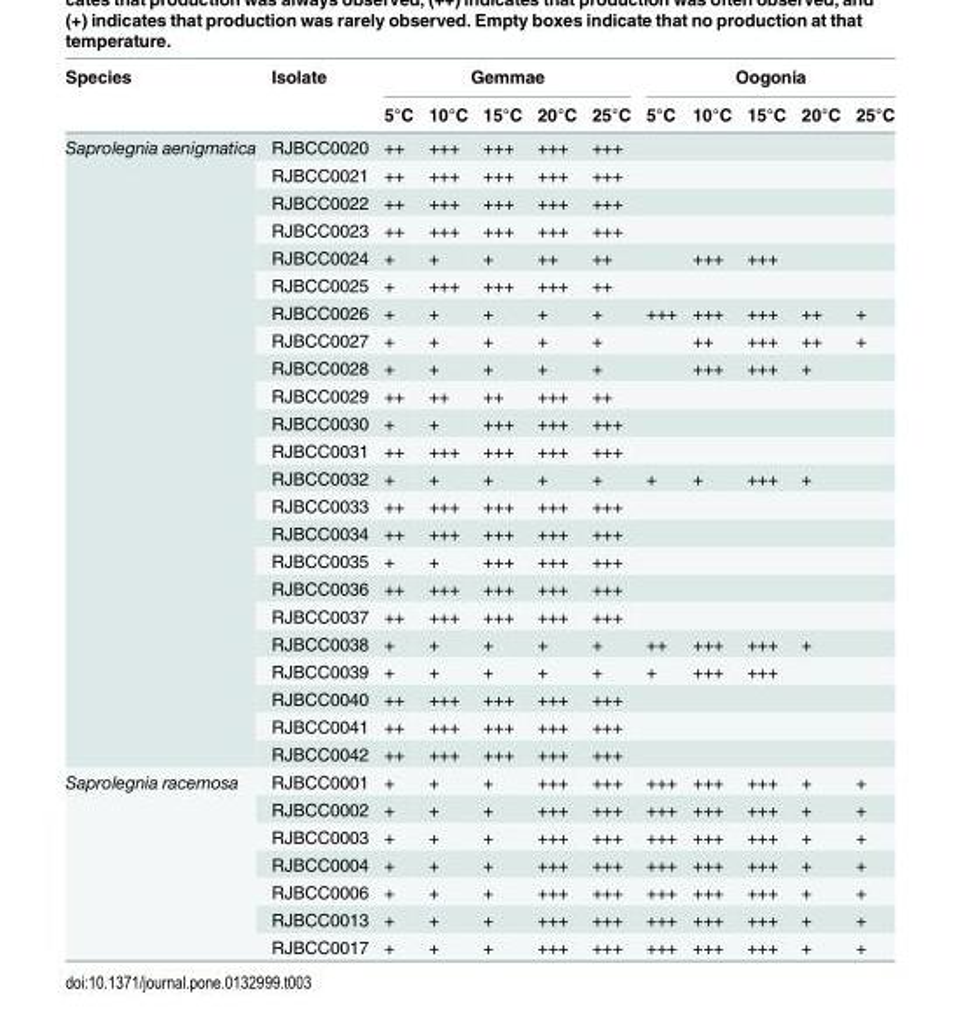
<table><thead><tr><td rowspan="2">Species</td><td rowspan="2">Isolate</td><td colspan="5">Gemmae</td><td colspan="5">Oogonia</td></tr><tr><td>5°C</td><td>10°C</td><td>15°C</td><td>20°C</td><td>25°C</td><td>5°C</td><td>10°C</td><td>15°C</td><td>20°C</td><td>25°C</td></tr></thead><tbody><tr><td rowspan="23">Saprolegnia aenigmatica</td><td>RJBCC0020</td><td>++</td><td>+++</td><td>+++</td><td>+++</td><td>+++</td><td></td><td></td><td></td><td></td><td></td></tr><tr><td>RJBCC0021</td><td>++</td><td>+++</td><td>+++</td><td>+++</td><td>+++</td><td></td><td></td><td></td><td></td><td></td></tr><tr><td>RJBCC0022</td><td>++</td><td>+++</td><td>+++</td><td>+++</td><td>+++</td><td></td><td></td><td></td><td></td><td></td></tr><tr><td>RJBCC0023</td><td>++</td><td>+++</td><td>+++</td><td>+++</td><td>+++</td><td></td><td></td><td></td><td></td><td></td></tr><tr><td>RJBCC0024</td><td>+</td><td>+</td><td>+</td><td>++</td><td>++</td><td></td><td>+++</td><td>+++</td><td></td><td></td></tr><tr><td>RJBCC0025</td><td>+</td><td>+++</td><td>+++</td><td>+++</td><td>++</td><td></td><td></td><td></td><td></td><td></td></tr><tr><td>RJBCC0026</td><td>+</td><td>+</td><td>+</td><td>+</td><td>+</td><td>+++</td><td>+++</td><td>+++</td><td>++</td><td>+</td></tr><tr><td>RJBCC0027</td><td>+</td><td>+</td><td>+</td><td>+</td><td>+</td><td></td><td>++</td><td>+++</td><td>++</td><td>+</td></tr><tr><td>RJBCC0028</td><td>+</td><td>+</td><td>+</td><td>+</td><td>+</td><td></td><td>+++</td><td>+++</td><td>+</td><td></td></tr><tr><td>RJBCC0029</td><td>++</td><td>++</td><td>++</td><td>+++</td><td>++</td><td></td><td></td><td></td><td></td><td></td></tr><tr><td>RJBCC0030</td><td>+</td><td>+</td><td>+++</td><td>+++</td><td>+++</td><td></td><td></td><td></td><td></td><td></td></tr><tr><td>RJBCC0031</td><td>++</td><td>+++</td><td>+++</td><td>+++</td><td>+++</td><td></td><td></td><td></td><td></td><td></td></tr><tr><td>RJBCC0032</td><td>+</td><td>+</td><td>+</td><td>+</td><td>+</td><td>+</td><td>+</td><td>+++</td><td>+</td><td></td></tr><tr><td>RJBCC0033</td><td>++</td><td>+++</td><td>+++</td><td>+++</td><td>+++</td><td></td><td></td><td></td><td></td><td></td></tr><tr><td>RJBCC0034</td><td>++</td><td>+++</td><td>+++</td><td>+++</td><td>+++</td><td></td><td></td><td></td><td></td><td></td></tr><tr><td>RJBCC0035</td><td>+</td><td>+</td><td>+++</td><td>+++</td><td>+++</td><td></td><td></td><td></td><td></td><td></td></tr><tr><td>RJBCC0036</td><td>++</td><td>+++</td><td>+++</td><td>+++</td><td>+++</td><td></td><td></td><td></td><td></td><td></td></tr><tr><td>RJBCC0037</td><td>++</td><td>+++</td><td>+++</td><td>+++</td><td>+++</td><td></td><td></td><td></td><td></td><td></td></tr><tr><td>RJBCC0038</td><td>+</td><td>+</td><td>+</td><td>+</td><td>+</td><td>++</td><td>+++</td><td>+++</td><td>+</td><td></td></tr><tr><td>RJBCC0039</td><td>+</td><td>+</td><td>+</td><td>+</td><td>+</td><td>+</td><td>+++</td><td>+++</td><td></td><td></td></tr><tr><td>RJBCC0040</td><td>++</td><td>+++</td><td>+++</td><td>+++</td><td>+++</td><td></td><td></td><td></td><td></td><td></td></tr><tr><td>RJBCC0041</td><td>++</td><td>+++</td><td>+++</td><td>+++</td><td>+++</td><td></td><td></td><td></td><td></td><td></td></tr><tr><td>RJBCC0042</td><td>++</td><td>+++</td><td>+++</td><td>+++</td><td>+++</td><td></td><td></td><td></td><td></td><td></td></tr><tr><td rowspan="7">Saprolegnia racemosa</td><td>RJBCC0001</td><td>+</td><td>+</td><td>+</td><td>+++</td><td>+++</td><td>+++</td><td>+++</td><td>+++</td><td>+</td><td>+</td></tr><tr><td>RJBCC0002</td><td>+</td><td>+</td><td>+</td><td>+++</td><td>+++</td><td>+++</td><td>+++</td><td>+++</td><td>+</td><td>+</td></tr><tr><td>RJBCC0003</td><td>+</td><td>+</td><td>+</td><td>+++</td><td>+++</td><td>+++</td><td>+++</td><td>+++</td><td>+</td><td>+</td></tr><tr><td>RJBCC0004</td><td>+</td><td>+</td><td>+</td><td>+++</td><td>+++</td><td>+++</td><td>+++</td><td>+++</td><td>+</td><td>+</td></tr><tr><td>RJBCC0006</td><td>+</td><td>+</td><td>+</td><td>+++</td><td>+++</td><td>+++</td><td>+++</td><td>+++</td><td>+</td><td>+</td></tr><tr><td>RJBCC0013</td><td>+</td><td>+</td><td>+</td><td>+++</td><td>+++</td><td>+++</td><td>+++</td><td>+++</td><td>+</td><td>+</td></tr><tr><td>RJBCC0017</td><td>+</td><td>+</td><td>+</td><td>+++</td><td>+++</td><td>+++</td><td>+++</td><td>+++</td><td>+</td><td>+</td></tr></tbody></table>